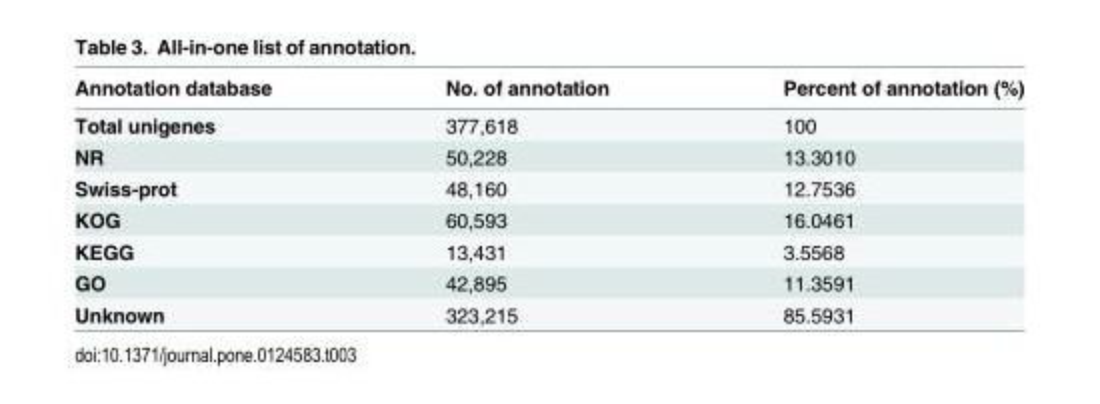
<table><thead><tr><td>Annotation database</td><td>No. of annotation</td><td>Percent of annotation (%)</td></tr></thead><tbody><tr><td>Total unigenes</td><td>377,618</td><td>100</td></tr><tr><td>NR</td><td>50,228</td><td>13.3010</td></tr><tr><td>Swiss-prot</td><td>48,160</td><td>12.7536</td></tr><tr><td>KOG</td><td>60,593</td><td>16.0461</td></tr><tr><td>KEGG</td><td>13,431</td><td>3.5568</td></tr><tr><td>GO</td><td>42,895</td><td>11.3591</td></tr><tr><td>Unknown</td><td>323,215</td><td>85.5931</td></tr></tbody></table>